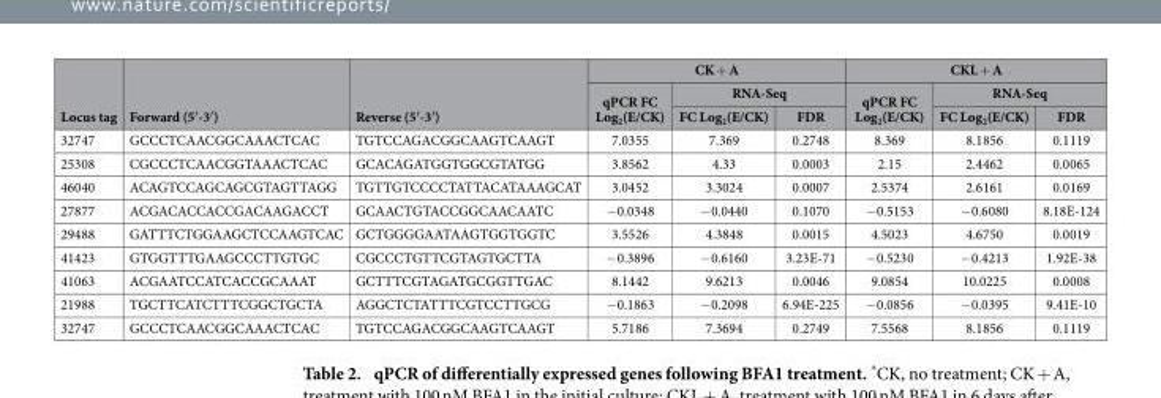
<table><thead><tr><td rowspan="3">Locus tag</td><td rowspan="3">Forward (5′ -3′ )</td><td rowspan="3">Reverse (5′ -3′ )</td><td colspan="3">CK + A</td><td colspan="3">CKL + A</td></tr><tr><td rowspan="2">qPCR FC Log<sub>2</sub>(E/CK)</td><td colspan="2">RNA-Seq</td><td rowspan="2">qPCR FC Log<sub>2</sub>(E/CK)</td><td colspan="2">RNA-Seq</td></tr><tr><td>FC Log<sub>2</sub>(E/CK)</td><td>FDR</td><td>FC Log<sub>2</sub>(E/CK)</td><td>FDR</td></tr></thead><tbody><tr><td>32747</td><td>GCCCTCAACGGCAAACTCAC</td><td>TGTCCAGACGGCAAGTCAAGT</td><td>7.0355</td><td>7.369</td><td>0.2748</td><td>8.369</td><td>8.1856</td><td>0.1119</td></tr><tr><td>25308</td><td>CGCCCTCAACGGTAAACTCAC</td><td>GCACAGATGGTGGCGTATGG</td><td>3.8562</td><td>4.33</td><td>0.0003</td><td>2.15</td><td>2.4462</td><td>0.0065</td></tr><tr><td>46040</td><td>ACAGTCCAGCAGCGTAGTTAGG</td><td>TGTTGTCCCCTATTACATAAAGCAT</td><td>3.0452</td><td>3.3024</td><td>0.0007</td><td>2.5374</td><td>2.6161</td><td>0.0169</td></tr><tr><td>27877</td><td>ACGACACCACCGACAAGACCT</td><td>GCAACTGTACCGGCAACAATC</td><td>− 0.0348</td><td>− 0.0440</td><td>0.1070</td><td>− 0.5153</td><td>− 0.6080</td><td>8.18E-124</td></tr><tr><td>29488</td><td>GATTTCTGGAAGCTCCAAGTCAC</td><td>GCTGGGGAATAAGTGGTGGTC</td><td>3.5526</td><td>4.3848</td><td>0.0015</td><td>4.5023</td><td>4.6750</td><td>0.0019</td></tr><tr><td>41423</td><td>GTGGTTTGAAGCCCTTGTGC</td><td>CGCCCTGTTCGTAGTGCTTA</td><td>− 0.3896</td><td>− 0.6160</td><td>3.23E-71</td><td>− 0.5230</td><td>− 0.4213</td><td>1.92E-38</td></tr><tr><td>41063</td><td>ACGAATCCATCACCGCAAAT</td><td>GCTTTCGTAGATGCGGTTGAC</td><td>8.1442</td><td>9.6213</td><td>0.0046</td><td>9.0854</td><td>10.0225</td><td>0.0008</td></tr><tr><td>21988</td><td>TGCTTCATCTTTCGGCTGCTA</td><td>AGGCTCTATTTCGTCCTTGCG</td><td>− 0.1863</td><td>− 0.2098</td><td>6.94E-225</td><td>− 0.0856</td><td>− 0.0395</td><td>9.41E-10</td></tr><tr><td>32747</td><td>GCCCTCAACGGCAAACTCAC</td><td>TGTCCAGACGGCAAGTCAAGT</td><td>5.7186</td><td>7.3694</td><td>0.2749</td><td>7.5568</td><td>8.1856</td><td>0.1119</td></tr></tbody></table>